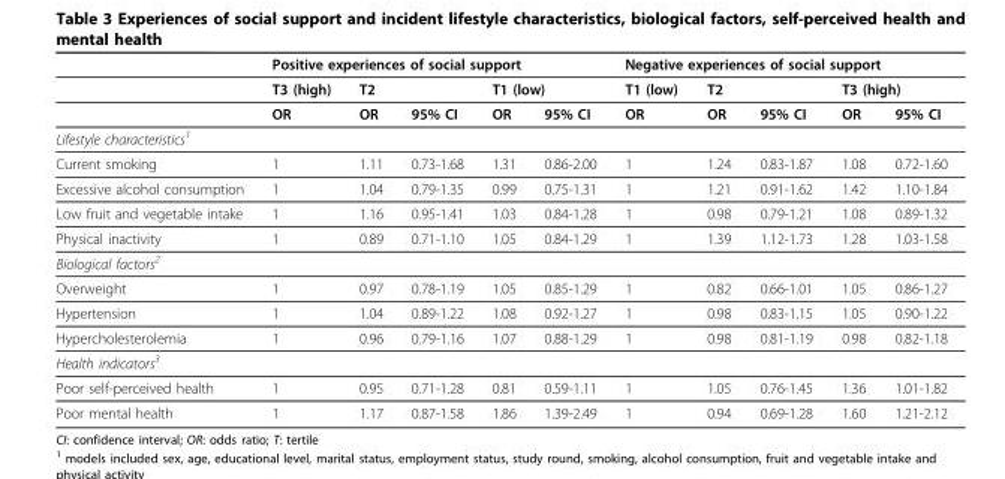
<table><thead><tr><td rowspan="3"></td><td colspan="5">Positive experiences of social support</td><td colspan="5">Negative experiences of social support</td></tr><tr><td rowspan="2">T3 (high) OR</td><td colspan="2">T2</td><td colspan="2">T1 (low)</td><td rowspan="2">T1 (low) OR</td><td colspan="2">T2</td><td colspan="2">T3 (high)</td></tr><tr><td>OR</td><td>95% CI</td><td>OR</td><td>95% CI</td><td>OR</td><td>95% CI</td><td>OR</td><td>95% CI</td></tr></thead><tbody><tr><td colspan="11">Lifestyle characteristics<sup>1</sup></td></tr><tr><td>Current smoking</td><td>1</td><td>1.11</td><td>0.73-1.68</td><td>1.31</td><td>0.86-2.00</td><td>1</td><td>1.24</td><td>0.83-1.87</td><td>1.08</td><td>0.72-1.60</td></tr><tr><td>Excessive alcohol consumption</td><td>1</td><td>1.04</td><td>0.79-1.35</td><td>0.99</td><td>0.75-1.31</td><td>1</td><td>1.21</td><td>0.91-1.62</td><td>1.42</td><td>1.10-1.84</td></tr><tr><td>Low fruit and vegetable intake</td><td>1</td><td>1.16</td><td>0.95-1.41</td><td>1.03</td><td>0.84-1.28</td><td>1</td><td>0.98</td><td>0.79-1.21</td><td>1.08</td><td>0.89-1.32</td></tr><tr><td>Physical inactivity</td><td>1</td><td>0.89</td><td>0.71-1.10</td><td>1.05</td><td>0.84-1.29</td><td>1</td><td>1.39</td><td>1.12-1.73</td><td>1.28</td><td>1.03-1.58</td></tr><tr><td colspan="11">Biological factors<sup>2</sup></td></tr><tr><td>Overweight</td><td>1</td><td>0.97</td><td>0.78-1.19</td><td>1.05</td><td>0.85-1.29</td><td>1</td><td>0.82</td><td>0.66-1.01</td><td>1.05</td><td>0.86-1.27</td></tr><tr><td>Hypertension</td><td>1</td><td>1.04</td><td>0.89-1.22</td><td>1.08</td><td>0.92-1.27</td><td>1</td><td>0.98</td><td>0.83-1.15</td><td>1.05</td><td>0.90-1.22</td></tr><tr><td>Hypercholesterolemia</td><td>1</td><td>0.96</td><td>0.79-1.16</td><td>1.07</td><td>0.88-1.29</td><td>1</td><td>0.98</td><td>0.81-1.19</td><td>0.98</td><td>0.82-1.18</td></tr><tr><td colspan="11">Health indicators<sup>3</sup></td></tr><tr><td>Poor self-perceived health</td><td>1</td><td>0.95</td><td>0.71-1.28</td><td>0.81</td><td>0.59-1.11</td><td>1</td><td>1.05</td><td>0.76-1.45</td><td>1.36</td><td>1.01-1.82</td></tr><tr><td>Poor mental health</td><td>1</td><td>1.17</td><td>0.87-1.58</td><td>1.86</td><td>1.39-2.49</td><td>1</td><td>0.94</td><td>0.69-1.28</td><td>1.60</td><td>1.21-2.12</td></tr></tbody></table>